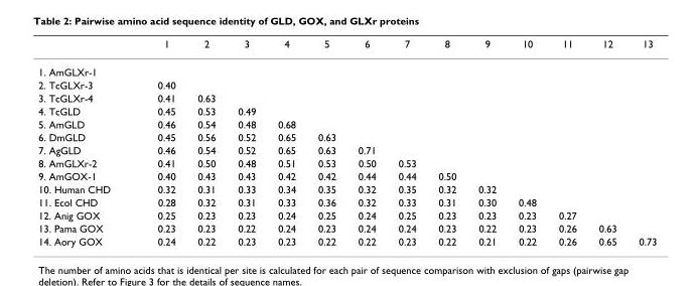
<table><thead><tr><td></td><td>1</td><td>2</td><td>3</td><td>4</td><td>5</td><td>6</td><td>7</td><td>8</td><td>9</td><td>10</td><td>11</td><td>12</td><td>13</td></tr></thead><tbody><tr><td colspan="14">1. AmGLXr-1</td></tr><tr><td>2. TcGLXr-3</td><td>0.40</td><td></td><td></td><td></td><td></td><td></td><td></td><td></td><td></td><td></td><td></td><td></td><td></td></tr><tr><td>3. TcGLXr-4</td><td>0.41</td><td>0.63</td><td></td><td></td><td></td><td></td><td></td><td></td><td></td><td></td><td></td><td></td><td></td></tr><tr><td>4. TcGLD</td><td>0.45</td><td>0.53</td><td>0.49</td><td></td><td></td><td></td><td></td><td></td><td></td><td></td><td></td><td></td><td></td></tr><tr><td>5. AmGLD</td><td>0.46</td><td>0.54</td><td>0.48</td><td>0.68</td><td></td><td></td><td></td><td></td><td></td><td></td><td></td><td></td><td></td></tr><tr><td>6. DmGLD</td><td>0.45</td><td>0.56</td><td>0.52</td><td>0.65</td><td>0.63</td><td></td><td></td><td></td><td></td><td></td><td></td><td></td><td></td></tr><tr><td>7. AgGLD</td><td>0.46</td><td>0.54</td><td>0.52</td><td>0.65</td><td>0.63</td><td>0.71</td><td></td><td></td><td></td><td></td><td></td><td></td><td></td></tr><tr><td>8. AmGLXr-2</td><td>0.41</td><td>0.50</td><td>0.48</td><td>0.51</td><td>0.53</td><td>0.50</td><td>0.53</td><td></td><td></td><td></td><td></td><td></td><td></td></tr><tr><td>9. AmGOX-1</td><td>0.40</td><td>0.43</td><td>0.43</td><td>0.42</td><td>0.42</td><td>0.44</td><td>0.44</td><td>0.50</td><td></td><td></td><td></td><td></td><td></td></tr><tr><td>10. Human CHD</td><td>0.32</td><td>0.31</td><td>0.33</td><td>0.34</td><td>0.35</td><td>0.32</td><td>0.35</td><td>0.32</td><td>0.32</td><td></td><td></td><td></td><td></td></tr><tr><td>11. Ecol CHD</td><td>0.28</td><td>0.32</td><td>0.31</td><td>0.33</td><td>0.36</td><td>0.32</td><td>0.33</td><td>0.31</td><td>0.30</td><td>0.48</td><td></td><td></td><td></td></tr><tr><td>12. Anig GOX</td><td>0.25</td><td>0.23</td><td>0.23</td><td>0.24</td><td>0.25</td><td>0.24</td><td>0.25</td><td>0.23</td><td>0.23</td><td>0.23</td><td>0.27</td><td></td><td></td></tr><tr><td>13. Pama GOX</td><td>0.23</td><td>0.23</td><td>0.22</td><td>0.24</td><td>0.23</td><td>0.24</td><td>0.24</td><td>0.23</td><td>0.22</td><td>0.23</td><td>0.26</td><td>0.63</td><td></td></tr><tr><td>14. Aory GOX</td><td>0.24</td><td>0.22</td><td>0.23</td><td>0.23</td><td>0.22</td><td>0.22</td><td>0.23</td><td>0.22</td><td>0.21</td><td>0.22</td><td>0.26</td><td>0.65</td><td>0.73</td></tr></tbody></table>